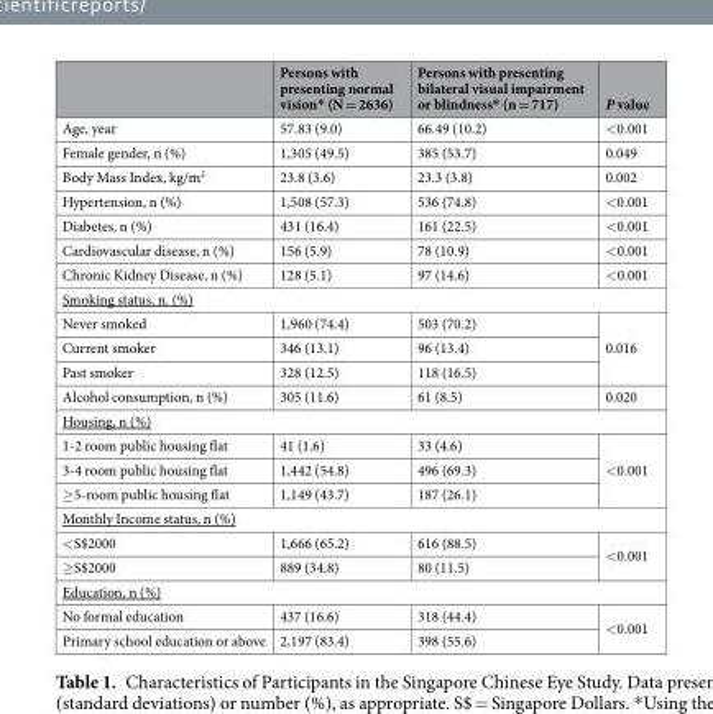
<table><thead><tr><td></td><td>Persons with presenting normal vision* (N = 2636)</td><td>Persons with presenting bilateral visual impairment or blindness* (n = 717)</td><td>P value</td></tr></thead><tbody><tr><td>Age, year</td><td>57.83 (9.0)</td><td>66.49 (10.2)</td><td>&lt;0.001</td></tr><tr><td>Female gender, n (%)</td><td>1,305 (49.5)</td><td>385 (53.7)</td><td>0.049</td></tr><tr><td>Body Mass Index, kg/m<sup>2</sup></td><td>23.8 (3.6)</td><td>23.3 (3.8)</td><td>0.002</td></tr><tr><td>Hypertension, n (%)</td><td>1,508 (57.3)</td><td>536 (74.8)</td><td>&lt;0.001</td></tr><tr><td>Diabetes, n (%)</td><td>431 (16.4)</td><td>161 (22.5)</td><td>&lt;0.001</td></tr><tr><td>Cardiovascular disease, n (%)</td><td>156 (5.9)</td><td>78 (10.9)</td><td>&lt;0.001</td></tr><tr><td>Chronic Kidney Disease, n (%)</td><td>128 (5.1)</td><td>97 (14.6)</td><td>&lt;0.001</td></tr><tr><td colspan="4">Smoking status, n. (%)</td></tr><tr><td>Never smoked</td><td>1,960 (74.4)</td><td>503 (70.2)</td><td rowspan="3">0.016</td></tr><tr><td>Current smoker</td><td>346 (13.1)</td><td>96 (13.4)</td></tr><tr><td>Past smoker</td><td>328 (12.5)</td><td>118 (16.5)</td></tr><tr><td>Alcohol consumption, n (%)</td><td>305 (11.6)</td><td>61 (8.5)</td><td>0.020</td></tr><tr><td colspan="4">Housing, n (%)</td></tr><tr><td>1-2 room public housing flat</td><td>41 (1.6)</td><td>33 (4.6)</td><td rowspan="3">&lt;0.001</td></tr><tr><td>3-4 room public housing flat</td><td>1,442 (54.8)</td><td>496 (69.3)</td></tr><tr><td>≥5-room public housing flat</td><td>1,149 (43.7)</td><td>187 (26.1)</td></tr><tr><td colspan="4">Monthly Income status, n (%)</td></tr><tr><td>&lt;S$2000</td><td>1,666 (65.2)</td><td>616 (88.5)</td><td rowspan="2">&lt;0.001</td></tr><tr><td>≥S$2000</td><td>889 (34.8)</td><td>80 (11.5)</td></tr><tr><td colspan="4">Education, n (%)</td></tr><tr><td>No formal education</td><td>437 (16.6)</td><td>318 (44.4)</td><td rowspan="2">&lt;0.001</td></tr><tr><td>Primary school education or above</td><td>2,197 (83.4)</td><td>398 (55.6)</td></tr></tbody></table>